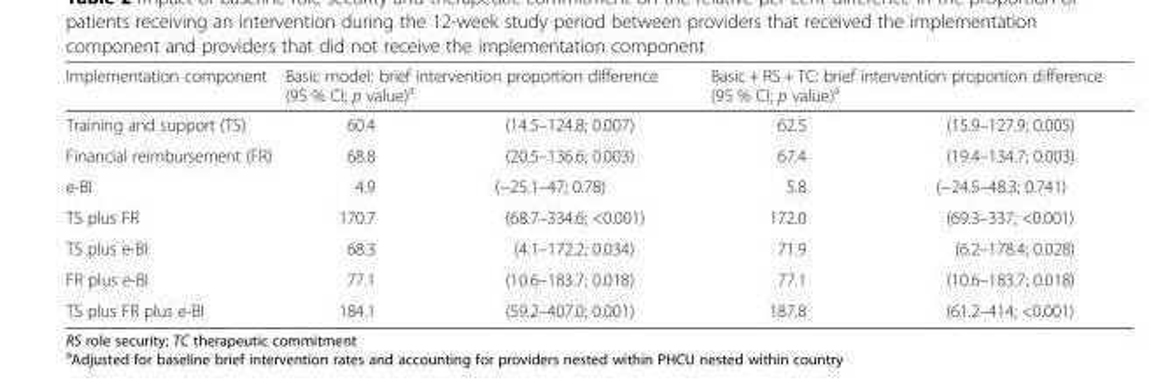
<table><thead><tr><td rowspan="2">Implementation component Training and support (TS)</td><td colspan="2">Basic model: brief intervention proportion difference (95 % CI; p value)<sup>a</sup></td><td colspan="2">Basic + RS + TC: brief intervention proportion difference (95 % CI; p value)<sup>a</sup></td></tr><tr><td>60.4</td><td>(14.5–124.8; 0.007)</td><td>62.5</td><td>(15.9–127.9; 0.005)</td></tr></thead><tbody><tr><td>Financial reimbursement (FR)</td><td>68.8</td><td>(20.5–136.6; 0.003)</td><td>67.4</td><td>(19.4–134.7; 0.003)</td></tr><tr><td>e-BI</td><td>4.9</td><td>(−25.1–47; 0.78)</td><td>5.8</td><td>(−24.5–48.3; 0.741)</td></tr><tr><td>TS plus FR</td><td>170.7</td><td>(68.7–334.6; &lt;0.001)</td><td>172.0</td><td>(69.3–337; &lt;0.001)</td></tr><tr><td>TS plus e-BI</td><td>68.3</td><td>(4.1–172.2; 0.034)</td><td>71.9</td><td>(6.2–178.4; 0.028)</td></tr><tr><td>FR plus e-BI</td><td>77.1</td><td>(10.6–183.7; 0.018)</td><td>77.1</td><td>(10.6–183.7; 0.018)</td></tr><tr><td>TS plus FR plus e-BI</td><td>184.1</td><td>(59.2–407.0; 0.001)</td><td>187.8</td><td>(61.2–414; &lt;0.001)</td></tr></tbody></table>